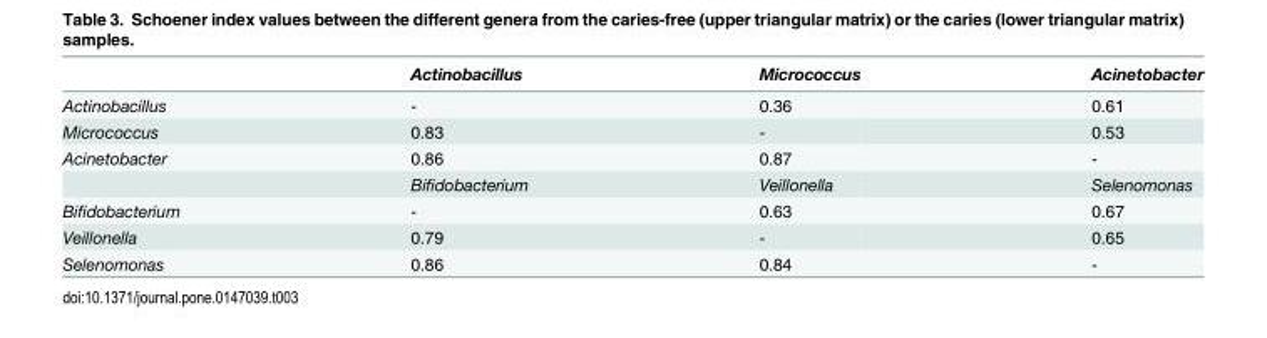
<table><thead><tr><td></td><td>Actinobacillus</td><td>Micrococcus</td><td>Acinetobacter</td></tr></thead><tbody><tr><td>Actinobacillus</td><td>-</td><td>0.36</td><td>0.61</td></tr><tr><td>Micrococcus</td><td>0.83</td><td>-</td><td>0.53</td></tr><tr><td rowspan="2">Acinetobacter</td><td>0.86</td><td>0.87</td><td>-</td></tr><tr><td>Bifidobacterium</td><td>Veillonella</td><td>Selenomonas</td></tr><tr><td>Bifidobacterium</td><td>-</td><td>0.63</td><td>0.67</td></tr><tr><td>Veillonella</td><td>0.79</td><td>-</td><td>0.65</td></tr><tr><td>Selenomonas</td><td>0.86</td><td>0.84</td><td>-</td></tr></tbody></table>